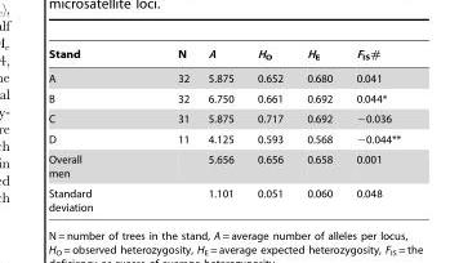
<table><thead><tr><td>Stand</td><td>N</td><td>A</td><td>H<sub>O</sub></td><td>H<sub>E</sub></td><td>F<sub>IS</sub>#</td></tr></thead><tbody><tr><td>A</td><td>32</td><td>5.875</td><td>0.652</td><td>0.680</td><td>0.041</td></tr><tr><td>B</td><td>32</td><td>6.750</td><td>0.661</td><td>0.692</td><td>0.044*</td></tr><tr><td>C</td><td>31</td><td>5.875</td><td>0.717</td><td>0.692</td><td>−0.036</td></tr><tr><td>D</td><td>11</td><td>4.125</td><td>0.593</td><td>0.568</td><td>−0.044**</td></tr><tr><td>Overall men</td><td></td><td>5.656</td><td>0.656</td><td>0.658</td><td>0.001</td></tr><tr><td>Standard deviation</td><td></td><td>1.101</td><td>0.051</td><td>0.060</td><td>0.048</td></tr></tbody></table>